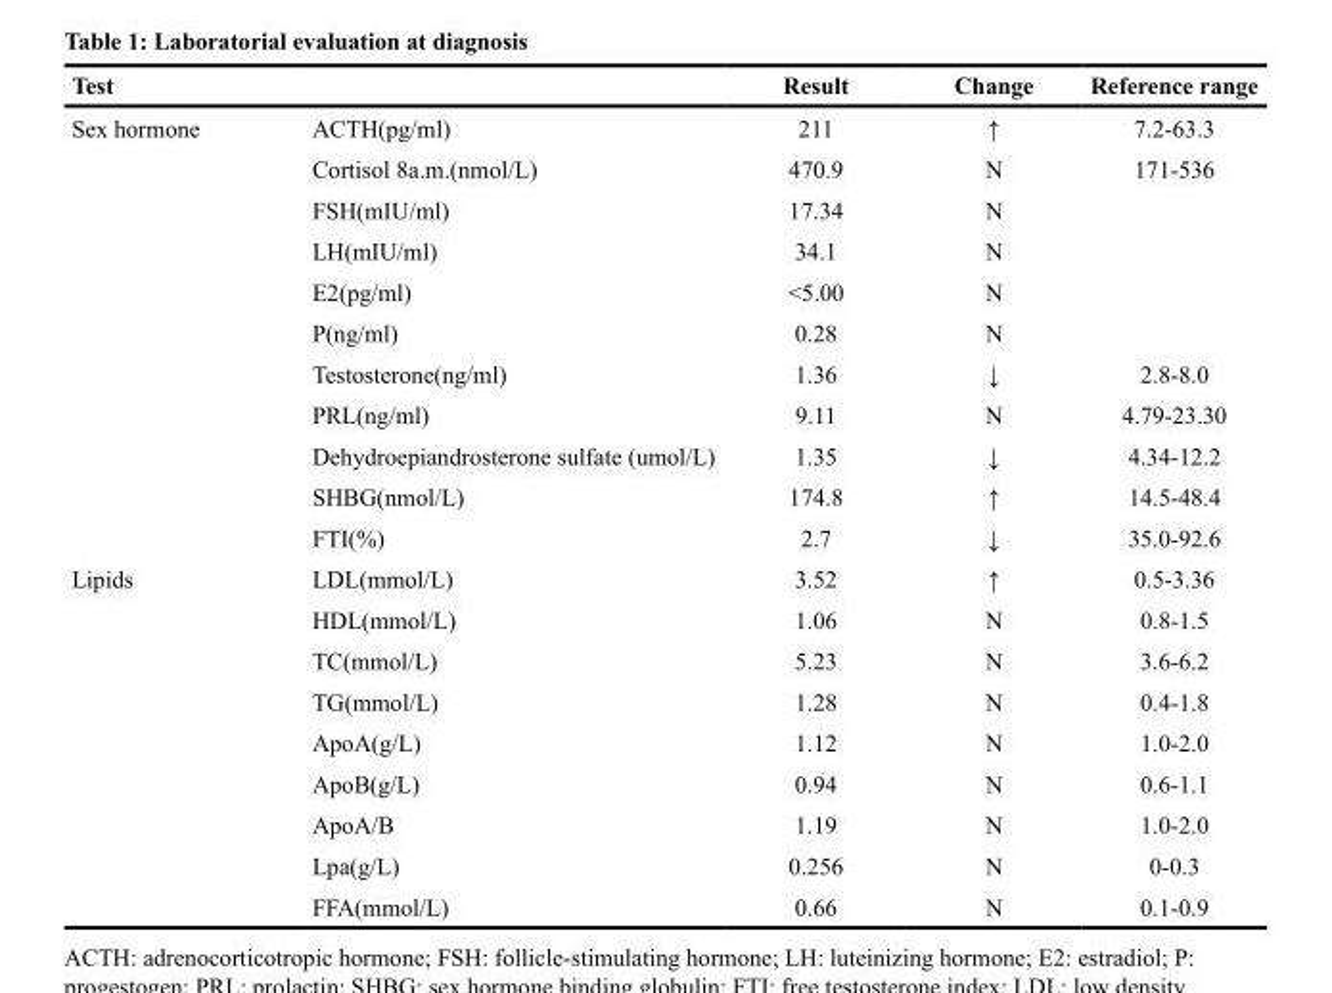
<table><thead><tr><td>Test</td><td></td><td>Result</td><td>Change</td><td>Reference range</td></tr></thead><tbody><tr><td rowspan="11">Sex hormone</td><td>ACTH(pg/ml)</td><td>211</td><td>↑</td><td>7.2-63.3</td></tr><tr><td>Cortisol 8a.m.(nmol/L)</td><td>470.9</td><td>N</td><td>171-536</td></tr><tr><td>FSH(mIU/ml)</td><td>17.34</td><td>N</td><td></td></tr><tr><td>LH(mIU/ml)</td><td>34.1</td><td>N</td><td></td></tr><tr><td>E2(pg/ml)</td><td>&lt;5.00</td><td>N</td><td></td></tr><tr><td>P(ng/ml)</td><td>0.28</td><td>N</td><td></td></tr><tr><td>Testosterone(ng/ml)</td><td>1.36</td><td>↓</td><td>2.8-8.0</td></tr><tr><td>PRL(ng/ml)</td><td>9.11</td><td>N</td><td>4.79-23.30</td></tr><tr><td>Dehydroepiandrosterone sulfate (umol/L)</td><td>1.35</td><td>↓</td><td>4.34-12.2</td></tr><tr><td>SHBG(nmol/L)</td><td>174.8</td><td>↑</td><td>14.5-48.4</td></tr><tr><td>FTI(%)</td><td>2.7</td><td>↓</td><td>35.0-92.6</td></tr><tr><td rowspan="9">Lipids</td><td>LDL(mmol/L)</td><td>3.52</td><td>↑</td><td>0.5-3.36</td></tr><tr><td>HDL(mmol/L)</td><td>1.06</td><td>N</td><td>0.8-1.5</td></tr><tr><td>TC(mmol/L)</td><td>5.23</td><td>N</td><td>3.6-6.2</td></tr><tr><td>TG(mmol/L)</td><td>1.28</td><td>N</td><td>0.4-1.8</td></tr><tr><td>ApoA(g/L)</td><td>1.12</td><td>N</td><td>1.0-2.0</td></tr><tr><td>ApoB(g/L)</td><td>0.94</td><td>N</td><td>0.6-1.1</td></tr><tr><td>ApoA/B</td><td>1.19</td><td>N</td><td>1.0-2.0</td></tr><tr><td>Lpa(g/L)</td><td>0.256</td><td>N</td><td>0-0.3</td></tr><tr><td>FFA(mmol/L)</td><td>0.66</td><td>N</td><td>0.1-0.9</td></tr></tbody></table>